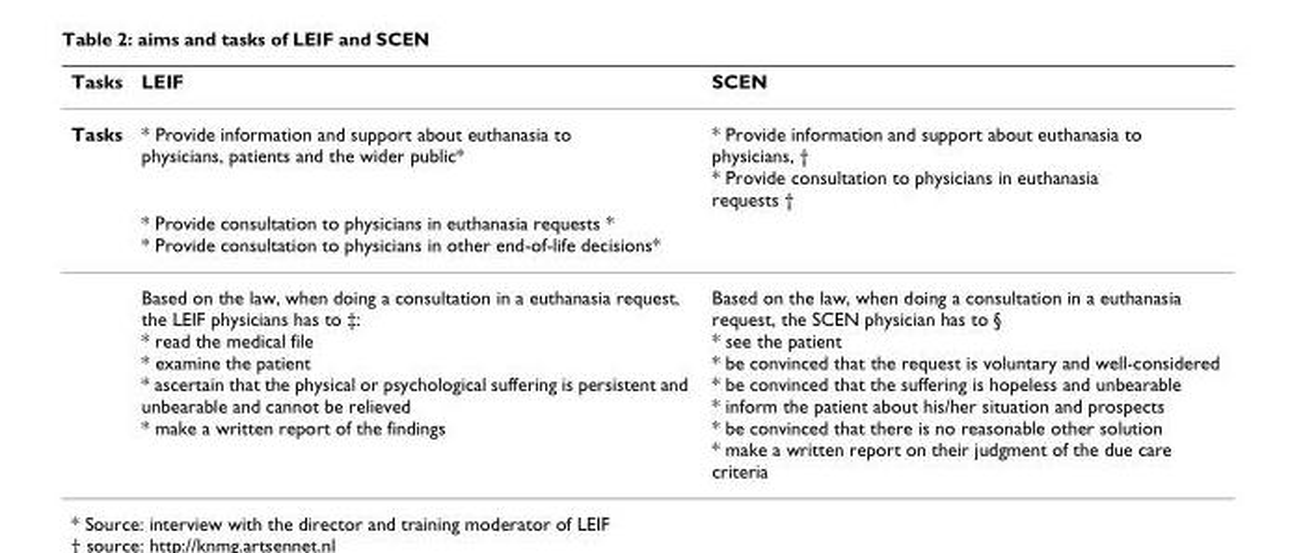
<table><thead><tr><td>Tasks</td><td>LEIF</td><td>SCEN</td></tr></thead><tbody><tr><td rowspan="3">Tasks</td><td>* Provide information and support about euthanasia to physicians, patients and the wider public*</td><td>* Provide information and support about euthanasia to physicians, † * Provide consultation to physicians in euthanasia requests †</td></tr><tr><td>* Provide consultation to physicians in euthanasia requests * * Provide consultation to physicians in other end-of-life decisions*</td><td></td></tr><tr><td>Based on the law, when doing a consultation in a euthanasia request, the LEIF physicians has to ‡: * read the medical file * examine the patient * ascertain that the physical or psychological suffering is persistent and unbearable and cannot be relieved * make a written report of the findings</td><td>Based on the law, when doing a consultation in a euthanasia request, the SCEN physician has to § * see the patient * be convinced that the request is voluntary and well-considered * be convinced that the suffering is hopeless and unbearable * inform the patient about his/her situation and prospects * be convinced that there is no reasonable other solution * make a written report on their judgment of the due care criteria</td></tr></tbody></table>